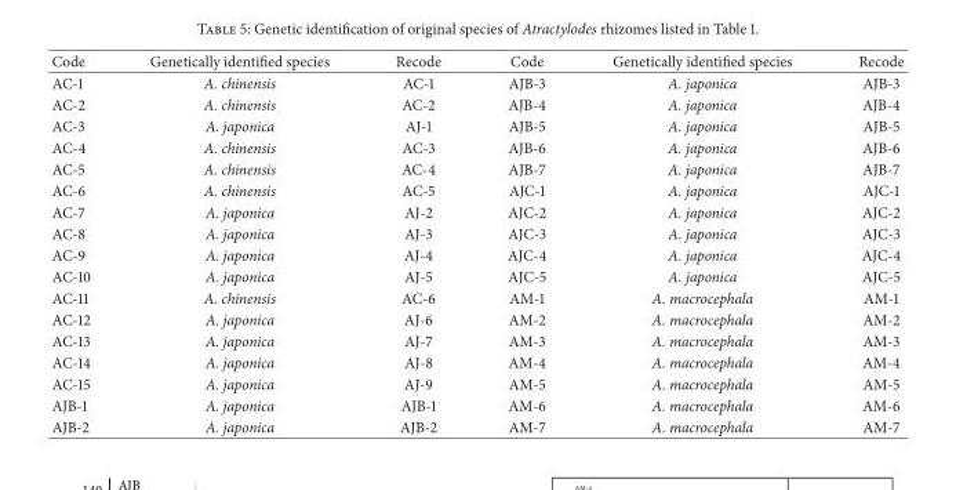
<table><thead><tr><td>Code</td><td>Genetically identified species</td><td>Recode</td><td>Code</td><td>Genetically identified species</td><td>Recode</td></tr></thead><tbody><tr><td>AC-1</td><td>A. chinensis</td><td>AC-1</td><td>AJB-3</td><td>A. japonica</td><td>AJB-3</td></tr><tr><td>AC-2</td><td>A. chinensis</td><td>AC-2</td><td>AJB-4</td><td>A. japonica</td><td>AJB-4</td></tr><tr><td>AC-3</td><td>A. japonica</td><td>AJ-1</td><td>AJB-5</td><td>A. japonica</td><td>AJB-5</td></tr><tr><td>AC-4</td><td>A. chinensis</td><td>AC-3</td><td>AJB-6</td><td>A. japonica</td><td>AJB-6</td></tr><tr><td>AC-5</td><td>A. chinensis</td><td>AC-4</td><td>AJB-7</td><td>A. japonica</td><td>AJB-7</td></tr><tr><td>AC-6</td><td>A. chinensis</td><td>AC-5</td><td>AJC-1</td><td>A. japonica</td><td>AJC-1</td></tr><tr><td>AC-7</td><td>A. japonica</td><td>AJ-2</td><td>AJC-2</td><td>A. japonica</td><td>AJC-2</td></tr><tr><td>AC-8</td><td>A. japonica</td><td>AJ-3</td><td>AJC-3</td><td>A. japonica</td><td>AJC-3</td></tr><tr><td>AC-9</td><td>A. japonica</td><td>AJ-4</td><td>AJC-4</td><td>A. japonica</td><td>AJC-4</td></tr><tr><td>AC-10</td><td>A. japonica</td><td>AJ-5</td><td>AJC-5</td><td>A. japonica</td><td>AJC-5</td></tr><tr><td>AC-11</td><td>A. chinensis</td><td>AC-6</td><td>AM-1</td><td>A. macrocephala</td><td>AM-1</td></tr><tr><td>AC-12</td><td>A. japonica</td><td>AJ-6</td><td>AM-2</td><td>A. macrocephala</td><td>AM-2</td></tr><tr><td>AC-13</td><td>A. japonica</td><td>AJ-7</td><td>AM-3</td><td>A. macrocephala</td><td>AM-3</td></tr><tr><td>AC-14</td><td>A. japonica</td><td>AJ-8</td><td>AM-4</td><td>A. macrocephala</td><td>AM-4</td></tr><tr><td>AC-15</td><td>A. japonica</td><td>AJ-9</td><td>AM-5</td><td>A. macrocephala</td><td>AM-5</td></tr><tr><td>AJB-1</td><td>A. japonica</td><td>AJB-1</td><td>AM-6</td><td>A. macrocephala</td><td>AM-6</td></tr><tr><td>AJB-2</td><td>A. japonica</td><td>AJB-2</td><td>AM-7</td><td>A. macrocephala</td><td>AM-7</td></tr></tbody></table>